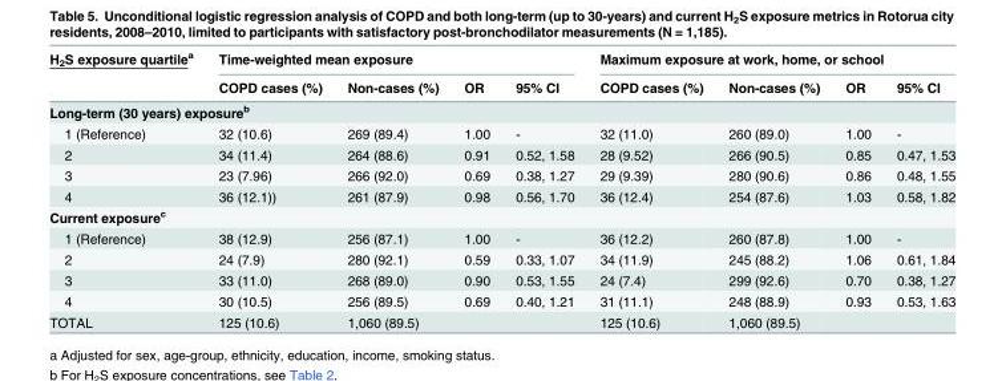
<table><thead><tr><td rowspan="2">H<sub>2</sub>S exposure quartile<sup>a</sup></td><td colspan="4">Time-weighted mean exposure</td><td colspan="4">Maximum exposure at work, home, or school</td></tr><tr><td>COPD cases (%)</td><td>Non-cases (%)</td><td>OR</td><td>95% CI</td><td>COPD cases (%)</td><td>Non-cases (%)</td><td>OR</td><td>95% CI</td></tr></thead><tbody><tr><td colspan="9">Long-term (30 years) exposure<sup>b</sup></td></tr><tr><td>1 (Reference)</td><td>32 (10.6)</td><td>269 (89.4)</td><td>1.00</td><td>-</td><td>32 (11.0)</td><td>260 (89.0)</td><td>1.00</td><td>-</td></tr><tr><td>2</td><td>34 (11.4)</td><td>264 (88.6)</td><td>0.91</td><td>0.52, 1.58</td><td>28 (9.52)</td><td>266 (90.5)</td><td>0.85</td><td>0.47, 1.53</td></tr><tr><td>3</td><td>23 (7.96)</td><td>266 (92.0)</td><td>0.69</td><td>0.38, 1.27</td><td>29 (9.39)</td><td>280 (90.6)</td><td>0.86</td><td>0.48, 1.55</td></tr><tr><td>4</td><td>36 (12.1))</td><td>261 (87.9)</td><td>0.98</td><td>0.56, 1.70</td><td>36 (12.4)</td><td>254 (87.6)</td><td>1.03</td><td>0.58, 1.82</td></tr><tr><td colspan="9">Current exposure<sup>c</sup></td></tr><tr><td>1 (Reference)</td><td>38 (12.9)</td><td>256 (87.1)</td><td>1.00</td><td>-</td><td>36 (12.2)</td><td>260 (87.8)</td><td>1.00</td><td>-</td></tr><tr><td>2</td><td>24 (7.9)</td><td>280 (92.1)</td><td>0.59</td><td>0.33, 1.07</td><td>34 (11.9)</td><td>245 (88.2)</td><td>1.06</td><td>0.61, 1.84</td></tr><tr><td>3</td><td>33 (11.0)</td><td>268 (89.0)</td><td>0.90</td><td>0.53, 1.55</td><td>24 (7.4)</td><td>299 (92.6)</td><td>0.70</td><td>0.38, 1.27</td></tr><tr><td>4</td><td>30 (10.5)</td><td>256 (89.5)</td><td>0.69</td><td>0.40, 1.21</td><td>31 (11.1)</td><td>248 (88.9)</td><td>0.93</td><td>0.53, 1.63</td></tr><tr><td>TOTAL</td><td>125 (10.6)</td><td>1,060 (89.5)</td><td></td><td></td><td>125 (10.6)</td><td>1,060 (89.5)</td><td></td><td></td></tr></tbody></table>